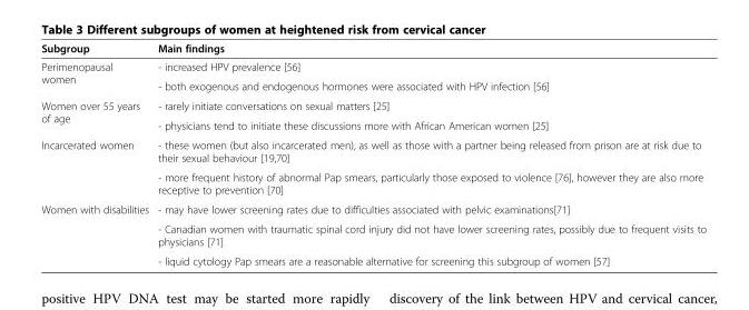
<table><thead><tr><td>Subgroup</td><td>Main findings</td></tr></thead><tbody><tr><td rowspan="2">Perimenopausal women</td><td>- increased HPV prevalence [56]</td></tr><tr><td>- both exogenous and endogenous hormones were associated with HPV infection [56]</td></tr><tr><td rowspan="2">Women over 55 years of age</td><td>- rarely initiate conversations on sexual matters [25]</td></tr><tr><td>- physicians tend to initiate these discussions more with African American women [25]</td></tr><tr><td rowspan="2">Incarcerated women</td><td>- these women (but also incarcerated men), as well as those with a partner being released from prison are at risk due to their sexual behaviour [19,70]</td></tr><tr><td>- more frequent history of abnormal Pap smears, particularly those exposed to violence [76], however they are also more receptive to prevention [70]</td></tr><tr><td rowspan="3">Women with disabilities</td><td>- may have lower screening rates due to difficulties associated with pelvic examinations[71]</td></tr><tr><td>- Canadian women with traumatic spinal cord injury did not have lower screening rates, possibly due to frequent visits to physicians [71]</td></tr><tr><td>- liquid cytology Pap smears are a reasonable alternative for screening this subgroup of women [57]</td></tr></tbody></table>